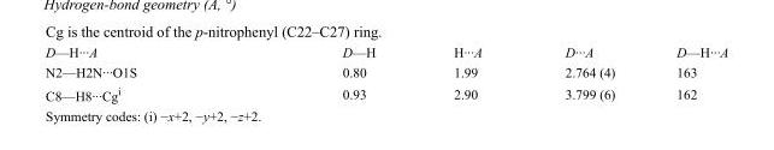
<table><tbody><tr><td>D—H···A</td><td>D—H</td><td>H···A</td><td>D···A</td><td>D—H···A</td></tr><tr><td>N2—H2N···O1S</td><td>0.80</td><td>1.99</td><td>2.764 (4)</td><td>163</td></tr><tr><td>C8—H8···Cg<sup>i</sup></td><td>0.93</td><td>2.90</td><td>3.799 (6)</td><td>162</td></tr></tbody></table>